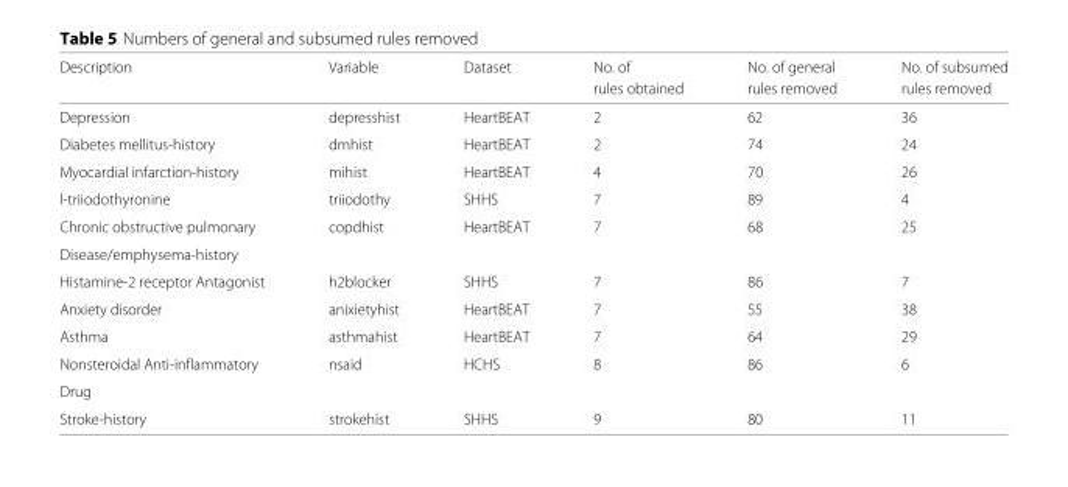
<table><thead><tr><td rowspan="2">Description</td><td rowspan="2">Variable</td><td rowspan="2">Dataset</td><td rowspan="2">No. of rules obtained</td><td rowspan="2">No. of general rules removed</td><td rowspan="2">No. of subsumed rules removed</td></tr><tr></tr></thead><tbody><tr><td>Depression</td><td>depresshist</td><td>HeartBEAT</td><td>2</td><td>62</td><td>36</td></tr><tr><td>Diabetes mellitus-history</td><td>dmhist</td><td>HeartBEAT</td><td>2</td><td>74</td><td>24</td></tr><tr><td>Myocardial infarction-history</td><td>mihist</td><td>HeartBEAT</td><td>4</td><td>70</td><td>26</td></tr><tr><td>l-triiodothyronine</td><td>triiodothy</td><td>SHHS</td><td>7</td><td>89</td><td>4</td></tr><tr><td>Chronic obstructive pulmonary</td><td>copdhist</td><td>HeartBEAT</td><td>7</td><td>68</td><td>25</td></tr><tr><td colspan="6">Disease/emphysema-history</td></tr><tr><td>Histamine-2 receptor Antagonist</td><td>h2blocker</td><td>SHHS</td><td>7</td><td>86</td><td>7</td></tr><tr><td>Anxiety disorder</td><td>anixietyhist</td><td>HeartBEAT</td><td>7</td><td>55</td><td>38</td></tr><tr><td>Asthma</td><td>asthmahist</td><td>HeartBEAT</td><td>7</td><td>64</td><td>29</td></tr><tr><td>Nonsteroidal Anti-inflammatory</td><td>nsaid</td><td>HCHS</td><td>8</td><td>86</td><td>6</td></tr><tr><td colspan="6">Drug</td></tr><tr><td>Stroke-history</td><td>strokehist</td><td>SHHS</td><td>9</td><td>80</td><td>11</td></tr></tbody></table>